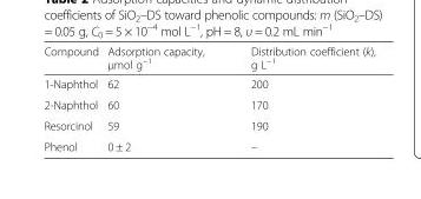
<table><thead><tr><td>Compound</td><td>Adsorption capacity, μmol g<sup>−1</sup></td><td>Distribution coefficient (k), g L<sup>−1</sup></td></tr></thead><tbody><tr><td>1-Naphthol</td><td>62</td><td>200</td></tr><tr><td>2-Naphthol</td><td>60</td><td>170</td></tr><tr><td>Resorcinol</td><td>59</td><td>190</td></tr><tr><td>Phenol</td><td>0 ± 2</td><td>–</td></tr></tbody></table>